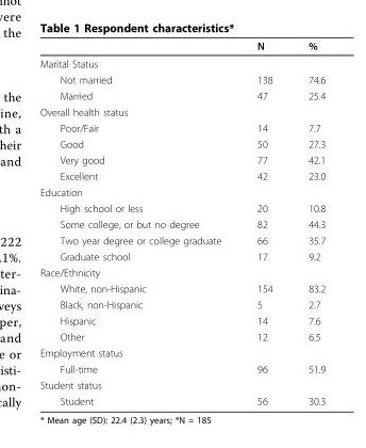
<table><thead><tr><td></td><td>N</td><td>%</td></tr></thead><tbody><tr><td colspan="3">Marital Status</td></tr><tr><td>Not married</td><td>138</td><td>74.6</td></tr><tr><td>Married</td><td>47</td><td>25.4</td></tr><tr><td colspan="3">Overall health status</td></tr><tr><td>Poor/Fair</td><td>14</td><td>7.7</td></tr><tr><td>Good</td><td>50</td><td>27.3</td></tr><tr><td>Very good</td><td>77</td><td>42.1</td></tr><tr><td>Excellent</td><td>42</td><td>23.0</td></tr><tr><td colspan="3">Education</td></tr><tr><td>High school or less</td><td>20</td><td>10.8</td></tr><tr><td>Some college, or but no degree</td><td>82</td><td>44.3</td></tr><tr><td>Two year degree or college graduate</td><td>66</td><td>35.7</td></tr><tr><td>Graduate school</td><td>17</td><td>9.2</td></tr><tr><td colspan="3">Race/Ethnicity</td></tr><tr><td>White, non-Hispanic</td><td>154</td><td>83.2</td></tr><tr><td>Black, non-Hispanic</td><td>5</td><td>2.7</td></tr><tr><td>Hispanic</td><td>14</td><td>7.6</td></tr><tr><td>Other</td><td>12</td><td>6.5</td></tr><tr><td colspan="3">Employment status</td></tr><tr><td>Full-time</td><td>96</td><td>51.9</td></tr><tr><td colspan="3">Student status</td></tr><tr><td>Student</td><td>56</td><td>30.3</td></tr></tbody></table>